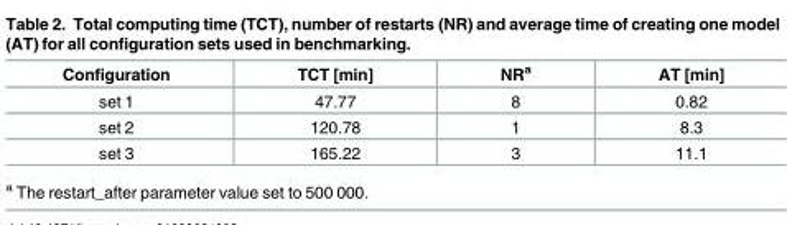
<table><thead><tr><td>Configuration</td><td>TCT [min]</td><td>NR<sup>a</sup></td><td>AT [min]</td></tr></thead><tbody><tr><td>set 1</td><td>47.77</td><td>8</td><td>0.82</td></tr><tr><td>set 2</td><td>120.78</td><td>1</td><td>8.3</td></tr><tr><td>set 3</td><td>165.22</td><td>3</td><td>11.1</td></tr></tbody></table>